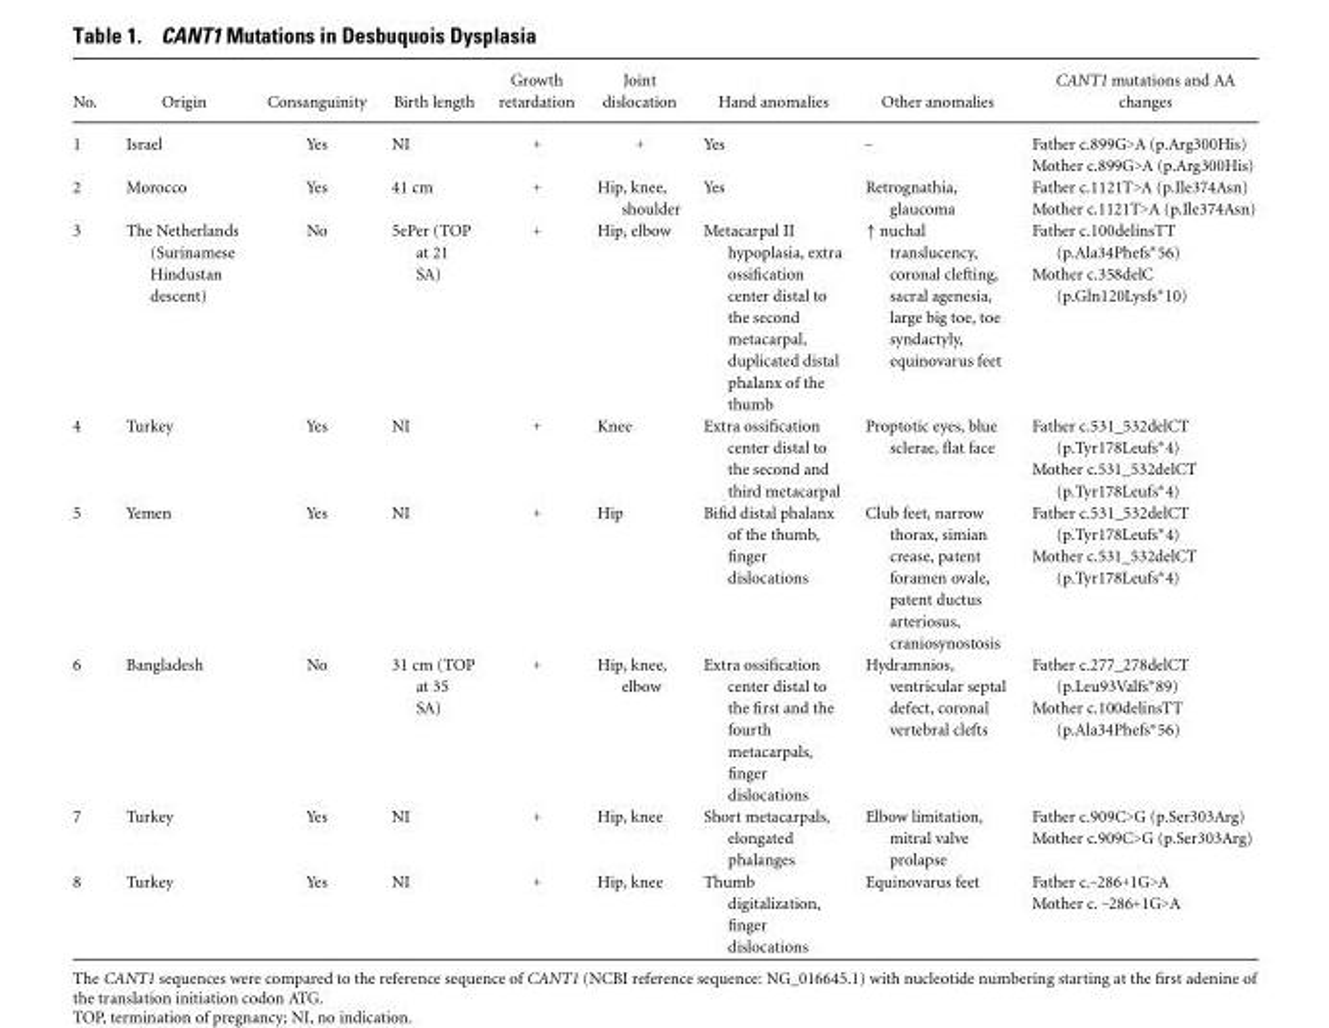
<table><thead><tr><td>No.</td><td>Origin</td><td>Consanguinity</td><td>Birth length</td><td>Growth retardation</td><td>Joint dislocation</td><td>Hand anomalies</td><td>Other anomalies</td><td>CANT1 mutations and AA changes</td></tr></thead><tbody><tr><td>1</td><td>Israel</td><td>Yes</td><td>NI</td><td>+</td><td>+</td><td>Yes</td><td>–</td><td>Father c.899G&gt;A (p.Arg300His) Mother c.899G&gt;A (p.Arg300His)</td></tr><tr><td>2</td><td>Morocco</td><td>Yes</td><td>41 cm</td><td>+</td><td>Hip, knee, shoulder</td><td>Yes</td><td>Retrognathia, glaucoma</td><td>Father c.1121T&gt;A (p.Ile374Asn) Mother c.1121T&gt;A (p.Ile374Asn)</td></tr><tr><td>3</td><td>The Netherlands (Surinamese Hindustan descent)</td><td>No</td><td>5ePer (TOP at 21 SA)</td><td>+</td><td>Hip, elbow</td><td>Metacarpal II hypoplasia, extra ossification center distal to the second metacarpal, duplicated distal phalanx of the thumb</td><td>↑ nuchal translucency, coronal clefting, sacral agenesia, large big toe, toe syndactyly, equinovarus feet</td><td>Father c.100delinsTT (p.Ala34Phefs∗56) Mother c.358delC (p.Gln120Lysfs∗10)</td></tr><tr><td>4</td><td>Turkey</td><td>Yes</td><td>NI</td><td>+</td><td>Knee</td><td>Extra ossification center distal to the second and third metacarpal</td><td>Proptotic eyes, blue sclerae, flat face</td><td>Father c.531_532delCT (p.Tyr178Leufs∗4) Mother c.531_532delCT (p.Tyr178Leufs∗4)</td></tr><tr><td>5</td><td>Yemen</td><td>Yes</td><td>NI</td><td>+</td><td>Hip</td><td>Bifid distal phalanx of the thumb, finger dislocations</td><td>Club feet, narrow thorax, simian crease, patent foramen ovale, patent ductus arteriosus, craniosynostosis</td><td>Father c.531_532delCT (p.Tyr178Leufs∗4) Mother c.531_532delCT (p.Tyr178Leufs∗4)</td></tr><tr><td>6</td><td>Bangladesh</td><td>No</td><td>31 cm (TOP at 35 SA)</td><td>+</td><td>Hip, knee, elbow</td><td>Extra ossification center distal to the first and the fourth metacarpals, finger dislocations</td><td>Hydramnios, ventricular septal defect, coronal vertebral clefts</td><td>Father c.277_278delCT (p.Leu93Valfs∗89) Mother c.100delinsTT (p.Ala34Phefs∗56)</td></tr><tr><td>7</td><td>Turkey</td><td>Yes</td><td>NI</td><td>+</td><td>Hip, knee</td><td>Short metacarpals, elongated phalanges</td><td>Elbow limitation, mitral valve prolapse</td><td>Father c.909C&gt;G (p.Ser303Arg) Mother c.909C&gt;G (p.Ser303Arg)</td></tr><tr><td>8</td><td>Turkey</td><td>Yes</td><td>NI</td><td>+</td><td>Hip, knee</td><td>Thumb digitalization, finger dislocations</td><td>Equinovarus feet</td><td>Father c.–286+1G&gt;A Mother c. –286+1G&gt;A</td></tr></tbody></table>